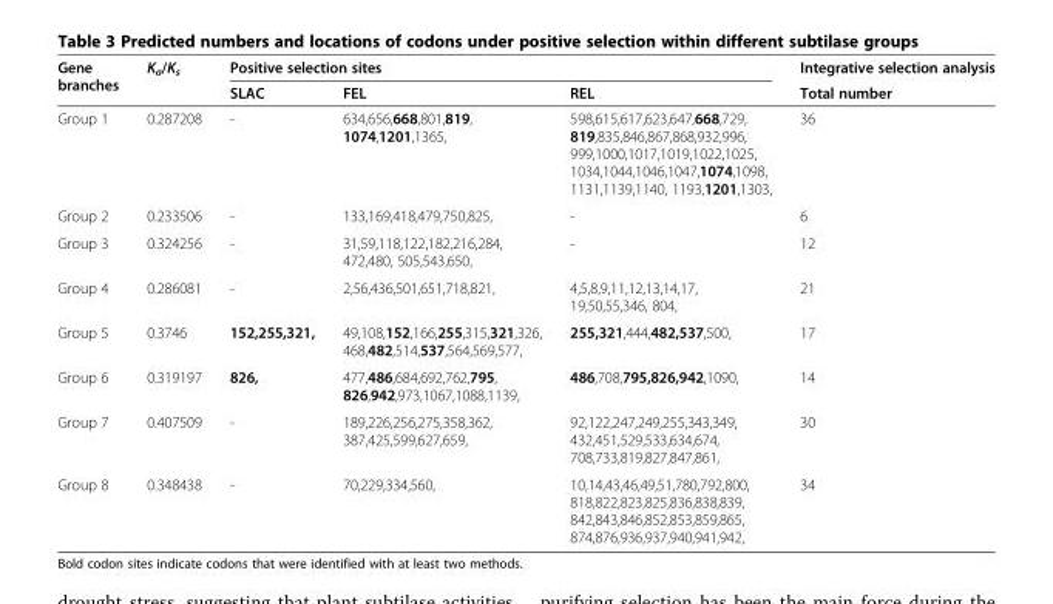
<table><thead><tr><td rowspan="2">Gene branches</td><td rowspan="2">K<sub>a</sub>/K<sub>s</sub></td><td colspan="3">Positive selection sites</td><td rowspan="2">Integrative selection analysis Total number</td></tr><tr><td>SLAC</td><td>FEL</td><td>REL</td></tr></thead><tbody><tr><td>Group 1</td><td>0.287208</td><td>-</td><td>634,656,668,801,819, 1074,1201,1365,</td><td>598,615,617,623,647,668,729, 819,835,846,867,868,932,996, 999,1000,1017,1019,1022,1025, 1034,1044,1046,1047,1074,1098, 1131,1139,1140, 1193,1201,1303,</td><td>36</td></tr><tr><td>Group 2</td><td>0.233506</td><td>-</td><td>133,169,418,479,750,825,</td><td>-</td><td>6</td></tr><tr><td>Group 3</td><td>0.324256</td><td>-</td><td>31,59,118,122,182,216,284, 472,480, 505,543,650,</td><td>-</td><td>12</td></tr><tr><td>Group 4</td><td>0.286081</td><td>-</td><td>2,56,436,501,651,718,821,</td><td>4,5,8,9,11,12,13,14,17, 19,50,55,346, 804,</td><td>21</td></tr><tr><td>Group 5</td><td>0.3746</td><td>152,255,321,</td><td>49,108,152,166,255,315,321,326, 468,482,514,537,564,569,577,</td><td>255,321,444,482,537,500,</td><td>17</td></tr><tr><td>Group 6</td><td>0.319197</td><td>826,</td><td>477,486,684,692,762,795, 826,942,973,1067,1088,1139,</td><td>486,708,795,826,942,1090,</td><td>14</td></tr><tr><td>Group 7</td><td>0.407509</td><td>-</td><td>189,226,256,275,358,362, 387,425,599,627,659,</td><td>92,122,247,249,255,343,349, 432,451,529,533,634,674, 708,733,819,827,847,861,</td><td>30</td></tr><tr><td>Group 8</td><td>0.348438</td><td>-</td><td>70,229,334,560,</td><td>10,14,43,46,49,51,780,792,800, 818,822,823,825,836,838,839, 842,843,846,852,853,859,865, 874,876,936,937,940,941,942,</td><td>34</td></tr></tbody></table>